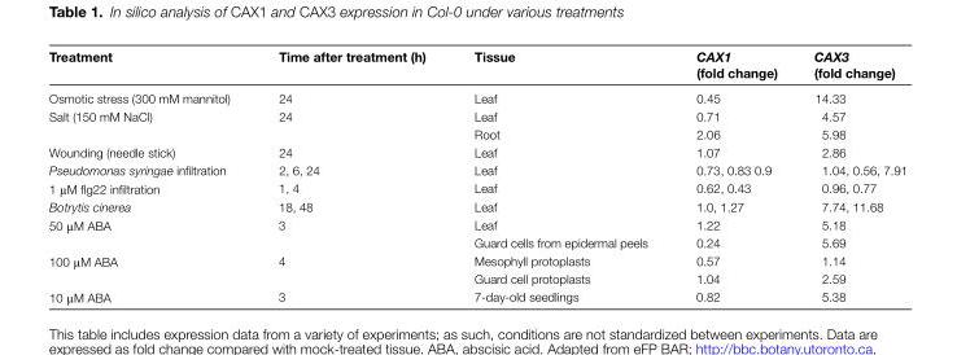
<table><thead><tr><td>Treatment</td><td>Time after treatment (h)</td><td>Tissue</td><td>CAX1 (fold change)</td><td>CAX3 (fold change)</td></tr></thead><tbody><tr><td>Osmotic stress (300 mM mannitol)</td><td>24</td><td>Leaf</td><td>0.45</td><td>14.33</td></tr><tr><td rowspan="2">Salt (150 mM NaCl)</td><td rowspan="2">24</td><td>Leaf</td><td>0.71</td><td>4.57</td></tr><tr><td>Root</td><td>2.06</td><td>5.98</td></tr><tr><td>Wounding (needle stick)</td><td>24</td><td>Leaf</td><td>1.07</td><td>2.86</td></tr><tr><td>Pseudomonas syringae infiltration</td><td>2, 6, 24</td><td>Leaf</td><td>0.73, 0.83 0.9</td><td>1.04, 0.56, 7.91</td></tr><tr><td>1 μM flg22 infiltration</td><td>1, 4</td><td>Leaf</td><td>0.62, 0.43</td><td>0.96, 0.77</td></tr><tr><td>Botrytis cinerea</td><td>18, 48</td><td>Leaf</td><td>1.0, 1.27</td><td>7.74, 11.68</td></tr><tr><td rowspan="2">50 μM ABA</td><td rowspan="2">3</td><td>Leaf</td><td>1.22</td><td>5.18</td></tr><tr><td>Guard cells from epidermal peels</td><td>0.24</td><td>5.69</td></tr><tr><td rowspan="2">100 μM ABA</td><td rowspan="2">4</td><td>Mesophyll protoplasts</td><td>0.57</td><td>1.14</td></tr><tr><td>Guard cell protoplasts</td><td>1.04</td><td>2.59</td></tr><tr><td>10 μM ABA</td><td>3</td><td>7-day-old seedlings</td><td>0.82</td><td>5.38</td></tr></tbody></table>